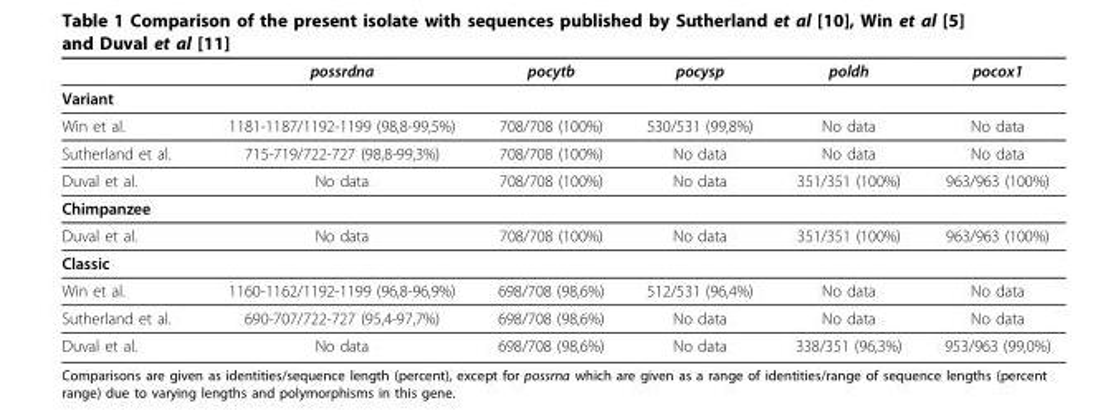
<table><thead><tr><td></td><td>possrdna</td><td>pocytb</td><td>pocysp</td><td>poldh</td><td>pocox1</td></tr></thead><tbody><tr><td colspan="6">Variant</td></tr><tr><td>Win et al.</td><td>1181-1187/1192-1199 (98,8-99,5%)</td><td>708/708 (100%)</td><td>530/531 (99,8%)</td><td>No data</td><td>No data</td></tr><tr><td>Sutherland et al.</td><td>715-719/722-727 (98,8-99,3%)</td><td>708/708 (100%)</td><td>No data</td><td>No data</td><td>No data</td></tr><tr><td>Duval et al.</td><td>No data</td><td>708/708 (100%)</td><td>No data</td><td>351/351 (100%)</td><td>963/963 (100%)</td></tr><tr><td colspan="6">Chimpanzee</td></tr><tr><td>Duval et al.</td><td>No data</td><td>708/708 (100%)</td><td>No data</td><td>351/351 (100%)</td><td>963/963 (100%)</td></tr><tr><td colspan="6">Classic</td></tr><tr><td>Win et al.</td><td>1160-1162/1192-1199 (96,8-96,9%)</td><td>698/708 (98,6%)</td><td>512/531 (96,4%)</td><td>No data</td><td>No data</td></tr><tr><td>Sutherland et al.</td><td>690-707/722-727 (95,4-97,7%)</td><td>698/708 (98,6%)</td><td>No data</td><td>No data</td><td>No data</td></tr><tr><td>Duval et al.</td><td>No data</td><td>698/708 (98,6%)</td><td>No data</td><td>338/351 (96,3%)</td><td>953/963 (99,0%)</td></tr></tbody></table>